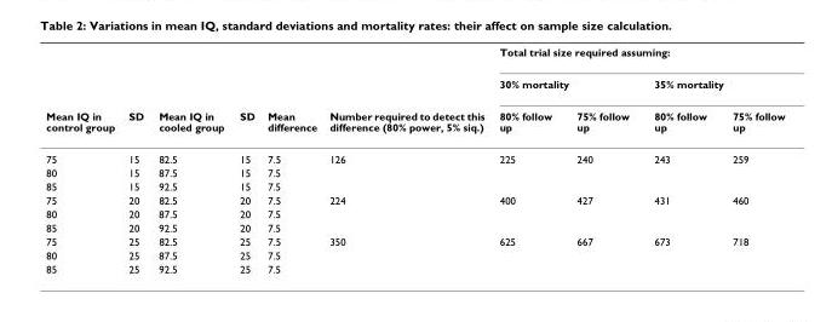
<table><thead><tr><td rowspan="3">Mean IQ in control group</td><td rowspan="3">SD</td><td rowspan="3">Mean IQ in cooled group</td><td rowspan="3">SD</td><td rowspan="3">Mean difference</td><td rowspan="3">Number required to detect this difference (80% power, 5% siq.)</td><td colspan="4">Total trial size required assuming:</td></tr><tr><td colspan="2">30% mortality</td><td colspan="2">35% mortality</td></tr><tr><td>80% follow up</td><td>75% follow up</td><td>80% follow up</td><td>75% follow up</td></tr></thead><tbody><tr><td>75</td><td>15</td><td>82.5</td><td>15</td><td>7.5</td><td>126</td><td>225</td><td>240</td><td>243</td><td>259</td></tr><tr><td>80</td><td>15</td><td>87.5</td><td>15</td><td>7.5</td><td></td><td></td><td></td><td></td><td></td></tr><tr><td>85</td><td>15</td><td>92.5</td><td>15</td><td>7.5</td><td></td><td></td><td></td><td></td><td></td></tr><tr><td>75</td><td>20</td><td>82.5</td><td>20</td><td>7.5</td><td>224</td><td>400</td><td>427</td><td>431</td><td>460</td></tr><tr><td>80</td><td>20</td><td>87.5</td><td>20</td><td>7.5</td><td></td><td></td><td></td><td></td><td></td></tr><tr><td>85</td><td>20</td><td>92.5</td><td>20</td><td>7.5</td><td></td><td></td><td></td><td></td><td></td></tr><tr><td>75</td><td>25</td><td>82.5</td><td>25</td><td>7.5</td><td>350</td><td>625</td><td>667</td><td>673</td><td>718</td></tr><tr><td>80</td><td>25</td><td>87.5</td><td>25</td><td>7.5</td><td></td><td></td><td></td><td></td><td></td></tr><tr><td>85</td><td>25</td><td>92.5</td><td>25</td><td>7.5</td><td></td><td></td><td></td><td></td><td></td></tr></tbody></table>